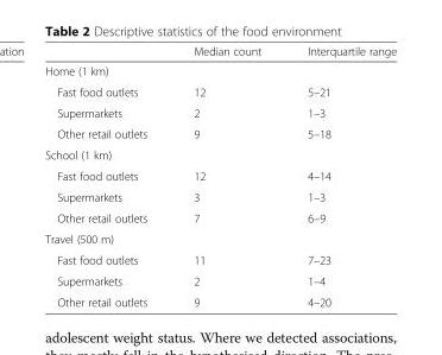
<table><thead><tr><td></td><td>Median count</td><td>Interquartile range</td></tr></thead><tbody><tr><td colspan="3">Home (1 km)</td></tr><tr><td>Fast food outlets</td><td>12</td><td>5–21</td></tr><tr><td>Supermarkets</td><td>2</td><td>1–3</td></tr><tr><td>Other retail outlets</td><td>9</td><td>5–18</td></tr><tr><td colspan="3">School (1 km)</td></tr><tr><td>Fast food outlets</td><td>12</td><td>4–14</td></tr><tr><td>Supermarkets</td><td>3</td><td>1–3</td></tr><tr><td>Other retail outlets</td><td>7</td><td>6–9</td></tr><tr><td colspan="3">Travel (500 m)</td></tr><tr><td>Fast food outlets</td><td>11</td><td>7–23</td></tr><tr><td>Supermarkets</td><td>2</td><td>1–4</td></tr><tr><td>Other retail outlets</td><td>9</td><td>4–20</td></tr></tbody></table>